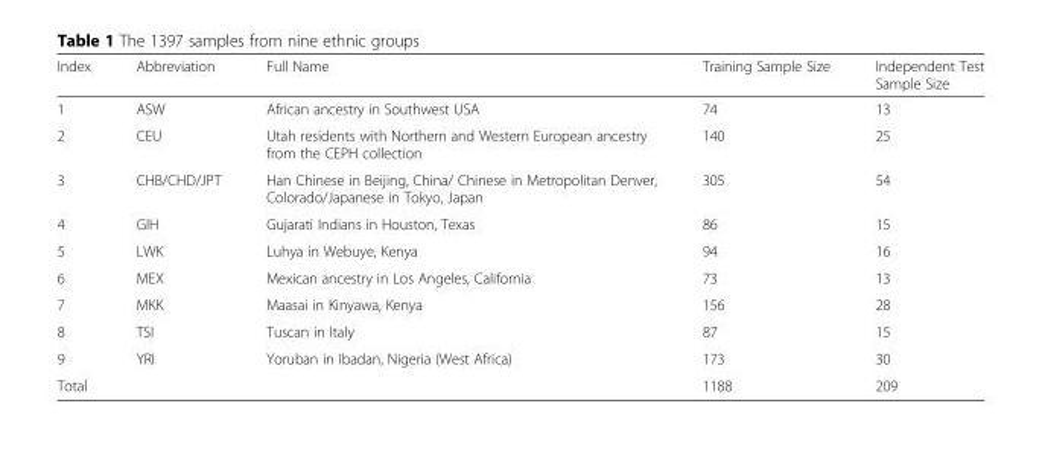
<table><thead><tr><td>Index</td><td>Abbreviation</td><td>Full Name</td><td>Training Sample Size</td><td>Independent Test Sample Size</td></tr></thead><tbody><tr><td>1</td><td>ASW</td><td>African ancestry in Southwest USA</td><td>74</td><td>13</td></tr><tr><td>2</td><td>CEU</td><td>Utah residents with Northern and Western European ancestry from the CEPH collection</td><td>140</td><td>25</td></tr><tr><td>3</td><td>CHB/CHD/JPT</td><td>Han Chinese in Beijing, China/ Chinese in Metropolitan Denver, Colorado/Japanese in Tokyo, Japan</td><td>305</td><td>54</td></tr><tr><td>4</td><td>GIH</td><td>Gujarati Indians in Houston, Texas</td><td>86</td><td>15</td></tr><tr><td>5</td><td>LWK</td><td>Luhya in Webuye, Kenya</td><td>94</td><td>16</td></tr><tr><td>6</td><td>MEX</td><td>Mexican ancestry in Los Angeles, California</td><td>73</td><td>13</td></tr><tr><td>7</td><td>MKK</td><td>Maasai in Kinyawa, Kenya</td><td>156</td><td>28</td></tr><tr><td>8</td><td>TSI</td><td>Tuscan in Italy</td><td>87</td><td>15</td></tr><tr><td>9</td><td>YRI</td><td>Yoruban in Ibadan, Nigeria (West Africa)</td><td>173</td><td>30</td></tr><tr><td colspan="3">Total</td><td>1188</td><td>209</td></tr></tbody></table>